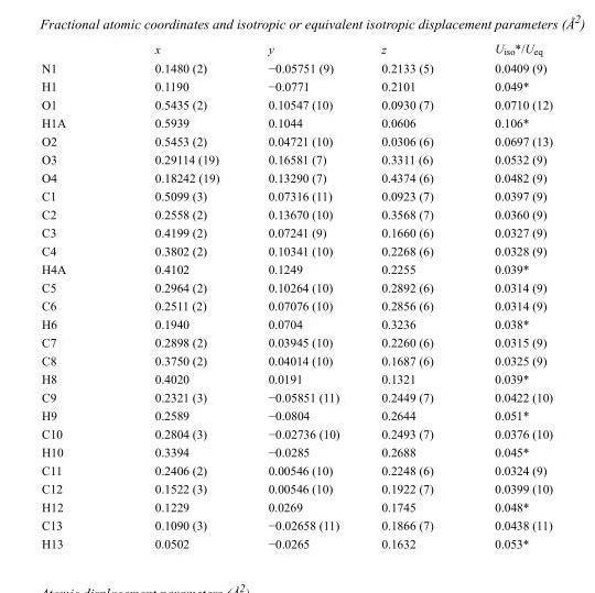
<table><thead><tr><td></td><td>x</td><td>y</td><td>z</td><td>U<sub>iso</sub>*/U<sub>eq</sub></td></tr></thead><tbody><tr><td>N1</td><td>0.1480 (2)</td><td>−0.05751 (9)</td><td>0.2133 (5)</td><td>0.0409 (9)</td></tr><tr><td>H1</td><td>0.1190</td><td>−0.0771</td><td>0.2101</td><td>0.049*</td></tr><tr><td>O1</td><td>0.5435 (2)</td><td>0.10547 (10)</td><td>0.0930 (7)</td><td>0.0710 (12)</td></tr><tr><td>H1A</td><td>0.5939</td><td>0.1044</td><td>0.0606</td><td>0.106*</td></tr><tr><td>O2</td><td>0.5453 (2)</td><td>0.04721 (10)</td><td>0.0306 (6)</td><td>0.0697 (13)</td></tr><tr><td>O3</td><td>0.29114 (19)</td><td>0.16581 (7)</td><td>0.3311 (6)</td><td>0.0532 (9)</td></tr><tr><td>O4</td><td>0.18242 (19)</td><td>0.13290 (7)</td><td>0.4374 (6)</td><td>0.0482 (9)</td></tr><tr><td>C1</td><td>0.5099 (3)</td><td>0.07316 (11)</td><td>0.0923 (7)</td><td>0.0397 (9)</td></tr><tr><td>C2</td><td>0.2558 (2)</td><td>0.13670 (10)</td><td>0.3568 (7)</td><td>0.0360 (9)</td></tr><tr><td>C3</td><td>0.4199 (2)</td><td>0.07241 (9)</td><td>0.1660 (6)</td><td>0.0327 (9)</td></tr><tr><td>C4</td><td>0.3802 (2)</td><td>0.10341 (10)</td><td>0.2268 (6)</td><td>0.0328 (9)</td></tr><tr><td>H4A</td><td>0.4102</td><td>0.1249</td><td>0.2255</td><td>0.039*</td></tr><tr><td>C5</td><td>0.2964 (2)</td><td>0.10264 (10)</td><td>0.2892 (6)</td><td>0.0314 (9)</td></tr><tr><td>C6</td><td>0.2511 (2)</td><td>0.07076 (10)</td><td>0.2856 (6)</td><td>0.0314 (9)</td></tr><tr><td>H6</td><td>0.1940</td><td>0.0704</td><td>0.3236</td><td>0.038*</td></tr><tr><td>C7</td><td>0.2898 (2)</td><td>0.03945 (10)</td><td>0.2260 (6)</td><td>0.0315 (9)</td></tr><tr><td>C8</td><td>0.3750 (2)</td><td>0.04014 (10)</td><td>0.1687 (6)</td><td>0.0325 (9)</td></tr><tr><td>H8</td><td>0.4020</td><td>0.0191</td><td>0.1321</td><td>0.039*</td></tr><tr><td>C9</td><td>0.2321 (3)</td><td>−0.05851 (11)</td><td>0.2449 (7)</td><td>0.0422 (10)</td></tr><tr><td>H9</td><td>0.2589</td><td>−0.0804</td><td>0.2644</td><td>0.051*</td></tr><tr><td>C10</td><td>0.2804 (3)</td><td>−0.02736 (10)</td><td>0.2493 (7)</td><td>0.0376 (10)</td></tr><tr><td>H10</td><td>0.3394</td><td>−0.0285</td><td>0.2688</td><td>0.045*</td></tr><tr><td>C11</td><td>0.2406 (2)</td><td>0.00546 (10)</td><td>0.2248 (6)</td><td>0.0324 (9)</td></tr><tr><td>C12</td><td>0.1522 (3)</td><td>0.00546 (10)</td><td>0.1922 (7)</td><td>0.0399 (10)</td></tr><tr><td>H12</td><td>0.1229</td><td>0.0269</td><td>0.1745</td><td>0.048*</td></tr><tr><td>C13</td><td>0.1090 (3)</td><td>−0.02658 (11)</td><td>0.1866 (7)</td><td>0.0438 (11)</td></tr><tr><td>H13</td><td>0.0502</td><td>−0.0265</td><td>0.1632</td><td>0.053*</td></tr></tbody></table>